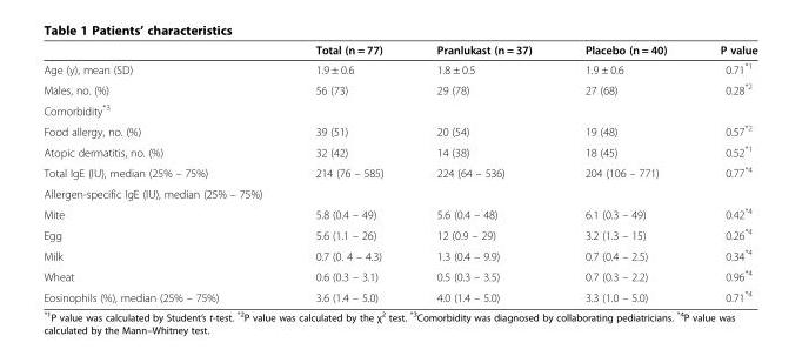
<table><thead><tr><td></td><td>Total (n = 77)</td><td>Pranlukast (n = 37)</td><td>Placebo (n = 40)</td><td>P value</td></tr></thead><tbody><tr><td>Age (y), mean (SD)</td><td>1.9 ± 0.6</td><td>1.8 ± 0.5</td><td>1.9 ± 0.6</td><td>0.71<sup>*1</sup></td></tr><tr><td>Males, no. (%)</td><td>56 (73)</td><td>29 (78)</td><td>27 (68)</td><td>0.28<sup>*2</sup></td></tr><tr><td colspan="5">Comorbidity<sup>*3</sup></td></tr><tr><td>Food allergy, no. (%)</td><td>39 (51)</td><td>20 (54)</td><td>19 (48)</td><td>0.57<sup>*2</sup></td></tr><tr><td>Atopic dermatitis, no. (%)</td><td>32 (42)</td><td>14 (38)</td><td>18 (45)</td><td>0.52<sup>*1</sup></td></tr><tr><td>Total IgE (IU), median (25% – 75%)</td><td>214 (76 – 585)</td><td>224 (64 – 536)</td><td>204 (106 – 771)</td><td>0.77<sup>*4</sup></td></tr><tr><td colspan="5">Allergen-specific IgE (IU), median (25% – 75%)</td></tr><tr><td>Mite</td><td>5.8 (0.4 – 49)</td><td>5.6 (0.4 – 48)</td><td>6.1 (0.3 – 49)</td><td>0.42<sup>*4</sup></td></tr><tr><td>Egg</td><td>5.6 (1.1 – 26)</td><td>12 (0.9 – 29)</td><td>3.2 (1.3 – 15)</td><td>0.26<sup>*4</sup></td></tr><tr><td>Milk</td><td>0.7 (0. 4 – 4.3)</td><td>1.3 (0.4 – 9.9)</td><td>0.7 (0.4 – 2.5)</td><td>0.34<sup>*4</sup></td></tr><tr><td>Wheat</td><td>0.6 (0.3 – 3.1)</td><td>0.5 (0.3 – 3.5)</td><td>0.7 (0.3 – 2.2)</td><td>0.96<sup>*4</sup></td></tr><tr><td>Eosinophils (%), median (25% – 75%)</td><td>3.6 (1.4 – 5.0)</td><td>4.0 (1.4 – 5.0)</td><td>3.3 (1.0 – 5.0)</td><td>0.71<sup>*4</sup></td></tr></tbody></table>